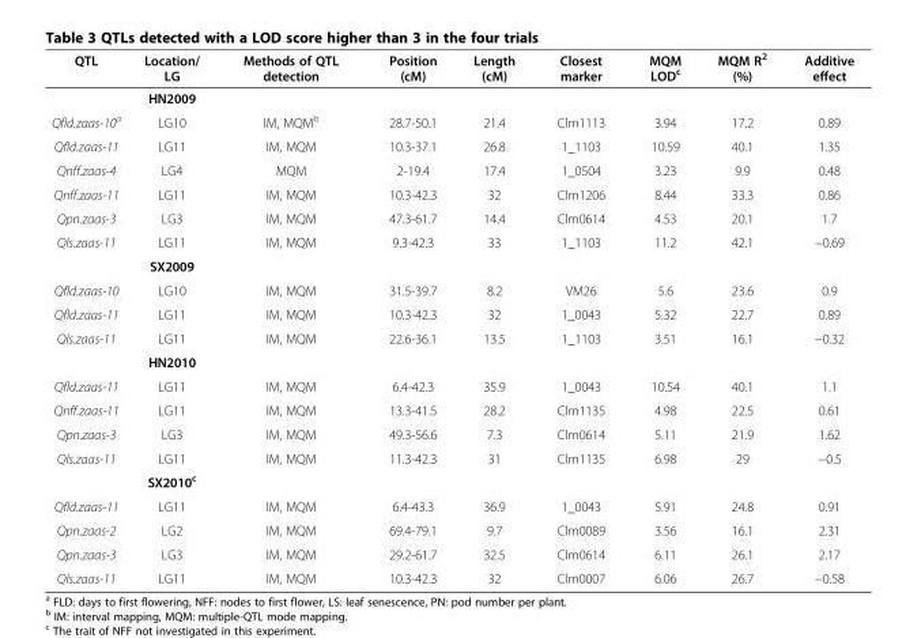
<table><thead><tr><td>QTL</td><td>Location/ LG</td><td>Methods of QTL detection</td><td>Position (cM)</td><td>Length (cM)</td><td>Closest marker</td><td>MQM LOD<sup>c</sup></td><td>MQM R<sup>2</sup> (%)</td><td>Additive effect</td></tr></thead><tbody><tr><td></td><td>HN2009</td><td></td><td></td><td></td><td></td><td></td><td></td><td></td></tr><tr><td>Qfld.zaas-10<sup>a</sup></td><td>LG10</td><td>IM, MQM<sup>b</sup></td><td>28.7-50.1</td><td>21.4</td><td>Clm1113</td><td>3.94</td><td>17.2</td><td>0.89</td></tr><tr><td>Qfld.zaas-11</td><td>LG11</td><td>IM, MQM</td><td>10.3-37.1</td><td>26.8</td><td>1_1103</td><td>10.59</td><td>40.1</td><td>1.35</td></tr><tr><td>Qnff.zaas-4</td><td>LG4</td><td>MQM</td><td>2-19.4</td><td>17.4</td><td>1_0504</td><td>3.23</td><td>9.9</td><td>0.48</td></tr><tr><td>Qnff.zaas-11</td><td>LG11</td><td>IM, MQM</td><td>10.3-42.3</td><td>32</td><td>Clm1206</td><td>8.44</td><td>33.3</td><td>0.86</td></tr><tr><td>Qpn.zaas-3</td><td>LG3</td><td>IM, MQM</td><td>47.3-61.7</td><td>14.4</td><td>Clm0614</td><td>4.53</td><td>20.1</td><td>1.7</td></tr><tr><td rowspan="2">Qls.zaas-11</td><td>LG11</td><td>IM, MQM</td><td>9.3-42.3</td><td>33</td><td>1_1103</td><td>11.2</td><td>42.1</td><td>−0.69</td></tr><tr><td>SX2009</td><td></td><td></td><td></td><td></td><td></td><td></td><td></td></tr><tr><td>Qfld.zaas-10</td><td>LG10</td><td>IM, MQM</td><td>31.5-39.7</td><td>8.2</td><td>VM26</td><td>5.6</td><td>23.6</td><td>0.9</td></tr><tr><td>Qfld.zaas-11</td><td>LG11</td><td>IM, MQM</td><td>10.3-42.3</td><td>32</td><td>1_0043</td><td>5.32</td><td>22.7</td><td>0.89</td></tr><tr><td rowspan="2">Qls.zaas-11</td><td>LG11</td><td>IM, MQM</td><td>22.6-36.1</td><td>13.5</td><td>1_1103</td><td>3.51</td><td>16.1</td><td>−0.32</td></tr><tr><td>HN2010</td><td></td><td></td><td></td><td></td><td></td><td></td><td></td></tr><tr><td>Qfld.zaas-11</td><td>LG11</td><td>IM, MQM</td><td>6.4-42.3</td><td>35.9</td><td>1_0043</td><td>10.54</td><td>40.1</td><td>1.1</td></tr><tr><td>Qnff.zaas-11</td><td>LG11</td><td>IM, MQM</td><td>13.3-41.5</td><td>28.2</td><td>Clm1135</td><td>4.98</td><td>22.5</td><td>0.61</td></tr><tr><td>Qpn.zaas-3</td><td>LG3</td><td>IM, MQM</td><td>49.3-56.6</td><td>7.3</td><td>Clm0614</td><td>5.11</td><td>21.9</td><td>1.62</td></tr><tr><td rowspan="2">Qls.zaas-11</td><td>LG11</td><td>IM, MQM</td><td>11.3-42.3</td><td>31</td><td>Clm1135</td><td>6.98</td><td>29</td><td>−0.5</td></tr><tr><td>SX2010<sup>c</sup></td><td></td><td></td><td></td><td></td><td></td><td></td><td></td></tr><tr><td>Qfld.zaas-11</td><td>LG11</td><td>IM, MQM</td><td>6.4-43.3</td><td>36.9</td><td>1_0043</td><td>5.91</td><td>24.8</td><td>0.91</td></tr><tr><td>Qpn.zaas-2</td><td>LG2</td><td>IM, MQM</td><td>69.4-79.1</td><td>9.7</td><td>Clm0089</td><td>3.56</td><td>16.1</td><td>2.31</td></tr><tr><td>Qpn.zaas-3</td><td>LG3</td><td>IM, MQM</td><td>29.2-61.7</td><td>32.5</td><td>Clm0614</td><td>6.11</td><td>26.1</td><td>2.17</td></tr><tr><td>Qls.zaas-11</td><td>LG11</td><td>IM, MQM</td><td>10.3-42.3</td><td>32</td><td>Clm0007</td><td>6.06</td><td>26.7</td><td>−0.58</td></tr></tbody></table>